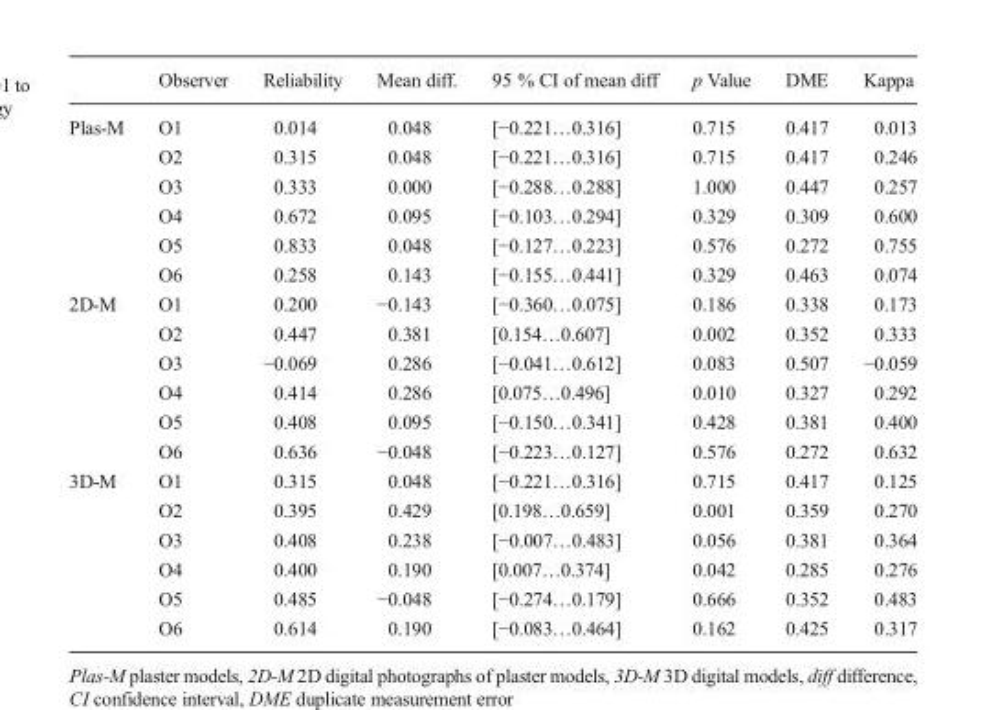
<table><thead><tr><td></td><td>Observer</td><td>Reliability</td><td>Mean diff.</td><td>95 % CI of mean diff</td><td>p Value</td><td>DME</td><td>Kappa</td></tr></thead><tbody><tr><td rowspan="6">Plas-M</td><td>O1</td><td>0.014</td><td>0.048</td><td>[−0.221…0.316]</td><td>0.715</td><td>0.417</td><td>0.013</td></tr><tr><td>O2</td><td>0.315</td><td>0.048</td><td>[−0.221…0.316]</td><td>0.715</td><td>0.417</td><td>0.246</td></tr><tr><td>O3</td><td>0.333</td><td>0.000</td><td>[−0.288…0.288]</td><td>1.000</td><td>0.447</td><td>0.257</td></tr><tr><td>O4</td><td>0.672</td><td>0.095</td><td>[−0.103…0.294]</td><td>0.329</td><td>0.309</td><td>0.600</td></tr><tr><td>O5</td><td>0.833</td><td>0.048</td><td>[−0.127…0.223]</td><td>0.576</td><td>0.272</td><td>0.755</td></tr><tr><td>O6</td><td>0.258</td><td>0.143</td><td>[−0.155…0.441]</td><td>0.329</td><td>0.463</td><td>0.074</td></tr><tr><td rowspan="6">2D-M</td><td>O1</td><td>0.200</td><td>−0.143</td><td>[−0.360…0.075]</td><td>0.186</td><td>0.338</td><td>0.173</td></tr><tr><td>O2</td><td>0.447</td><td>0.381</td><td>[0.154…0.607]</td><td>0.002</td><td>0.352</td><td>0.333</td></tr><tr><td>O3</td><td>−0.069</td><td>0.286</td><td>[−0.041…0.612]</td><td>0.083</td><td>0.507</td><td>−0.059</td></tr><tr><td>O4</td><td>0.414</td><td>0.286</td><td>[0.075…0.496]</td><td>0.010</td><td>0.327</td><td>0.292</td></tr><tr><td>O5</td><td>0.408</td><td>0.095</td><td>[−0.150…0.341]</td><td>0.428</td><td>0.381</td><td>0.400</td></tr><tr><td>O6</td><td>0.636</td><td>−0.048</td><td>[−0.223…0.127]</td><td>0.576</td><td>0.272</td><td>0.632</td></tr><tr><td rowspan="6">3D-M</td><td>O1</td><td>0.315</td><td>0.048</td><td>[−0.221…0.316]</td><td>0.715</td><td>0.417</td><td>0.125</td></tr><tr><td>O2</td><td>0.395</td><td>0.429</td><td>[0.198…0.659]</td><td>0.001</td><td>0.359</td><td>0.270</td></tr><tr><td>O3</td><td>0.408</td><td>0.238</td><td>[−0.007…0.483]</td><td>0.056</td><td>0.381</td><td>0.364</td></tr><tr><td>O4</td><td>0.400</td><td>0.190</td><td>[0.007…0.374]</td><td>0.042</td><td>0.285</td><td>0.276</td></tr><tr><td>O5</td><td>0.485</td><td>−0.048</td><td>[−0.274…0.179]</td><td>0.666</td><td>0.352</td><td>0.483</td></tr><tr><td>O6</td><td>0.614</td><td>0.190</td><td>[−0.083…0.464]</td><td>0.162</td><td>0.425</td><td>0.317</td></tr></tbody></table>